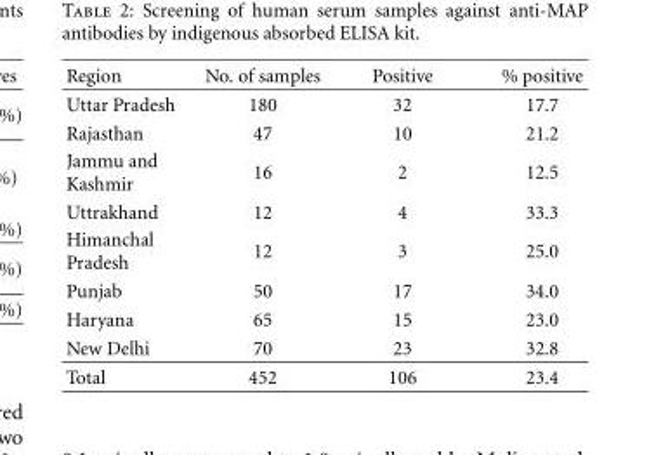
<table><thead><tr><td>Region</td><td>No. of samples</td><td>Positive</td><td>% positive</td></tr></thead><tbody><tr><td>Uttar Pradesh</td><td>180</td><td>32</td><td>17.7</td></tr><tr><td>Rajasthan</td><td>47</td><td>10</td><td>21.2</td></tr><tr><td>Jammu and Kashmir</td><td>16</td><td>2</td><td>12.5</td></tr><tr><td>Uttrakhand</td><td>12</td><td>4</td><td>33.3</td></tr><tr><td>Himanchal Pradesh</td><td>12</td><td>3</td><td>25.0</td></tr><tr><td>Punjab</td><td>50</td><td>17</td><td>34.0</td></tr><tr><td>Haryana</td><td>65</td><td>15</td><td>23.0</td></tr><tr><td>New Delhi</td><td>70</td><td>23</td><td>32.8</td></tr><tr><td>Total</td><td>452</td><td>106</td><td>23.4</td></tr></tbody></table>